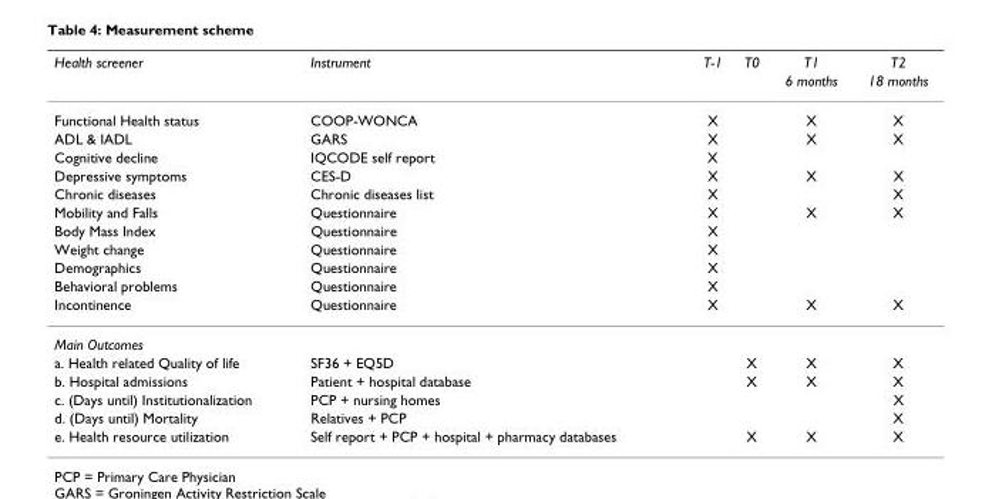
<table><thead><tr><td rowspan="2">Health screener</td><td rowspan="2">Instrument</td><td rowspan="2">T-1</td><td rowspan="2">T0</td><td rowspan="2">T1 6 months</td><td rowspan="2">T2 18 months</td></tr><tr></tr></thead><tbody><tr><td>Functional Health status</td><td>COOP-WONCA</td><td>X</td><td></td><td>X</td><td>X</td></tr><tr><td>ADL &amp; IADL</td><td>GARS</td><td>X</td><td></td><td>X</td><td>X</td></tr><tr><td>Cognitive decline</td><td>IQCODE self report</td><td>X</td><td></td><td></td><td></td></tr><tr><td>Depressive symptoms</td><td>CES-D</td><td>X</td><td></td><td>X</td><td>X</td></tr><tr><td>Chronic diseases</td><td>Chronic diseases list</td><td>X</td><td></td><td></td><td>X</td></tr><tr><td>Mobility and Falls</td><td>Questionnaire</td><td>X</td><td></td><td>X</td><td>X</td></tr><tr><td>Body Mass Index</td><td>Questionnaire</td><td>X</td><td></td><td></td><td></td></tr><tr><td>Weight change</td><td>Questionnaire</td><td>X</td><td></td><td></td><td></td></tr><tr><td>Demographics</td><td>Questionnaire</td><td>X</td><td></td><td></td><td></td></tr><tr><td>Behavioral problems</td><td>Questionnaire</td><td>X</td><td></td><td></td><td></td></tr><tr><td>Incontinence</td><td>Questionnaire</td><td>X</td><td></td><td>X</td><td>X</td></tr><tr><td colspan="6">Main Outcomes</td></tr><tr><td>a. Health related Quality of life</td><td>SF36 + EQ5D</td><td></td><td>X</td><td>X</td><td>X</td></tr><tr><td>b. Hospital admissions</td><td>Patient + hospital database</td><td></td><td>X</td><td>X</td><td>X</td></tr><tr><td>c. (Days until) Institutionalization</td><td>PCP + nursing homes</td><td></td><td></td><td></td><td>X</td></tr><tr><td>d. (Days until) Mortality</td><td>Relatives + PCP</td><td></td><td></td><td></td><td>X</td></tr><tr><td>e. Health resource utilization</td><td>Self report + PCP + hospital + pharmacy databases</td><td></td><td>X</td><td>X</td><td>X</td></tr></tbody></table>